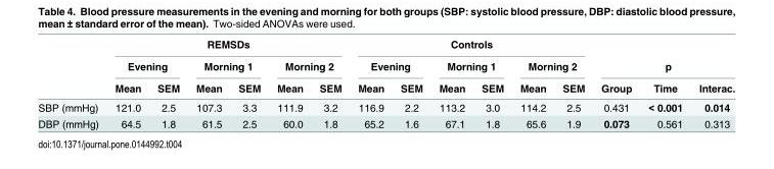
<table><thead><tr><td rowspan="3"></td><td colspan="6">REMSDs</td><td colspan="6">Controls</td><td></td><td></td><td></td></tr><tr><td colspan="2">Evening</td><td colspan="2">Morning 1</td><td colspan="2">Morning 2</td><td colspan="2">Evening</td><td colspan="2">Morning 1</td><td colspan="2">Morning 2</td><td colspan="3">p</td></tr><tr><td>Mean</td><td>SEM</td><td>Mean</td><td>SEM</td><td>Mean</td><td>SEM</td><td>Mean</td><td>SEM</td><td>Mean</td><td>SEM</td><td>Mean</td><td>SEM</td><td>Group</td><td>Time</td><td>Interac.</td></tr></thead><tbody><tr><td>SBP (mmHg)</td><td>121.0</td><td>2.5</td><td>107.3</td><td>3.3</td><td>111.9</td><td>3.2</td><td>116.9</td><td>2.2</td><td>113.2</td><td>3.0</td><td>114.2</td><td>2.5</td><td>0.431</td><td>&lt; 0.001</td><td>0.014</td></tr><tr><td>DBP (mmHg)</td><td>64.5</td><td>1.8</td><td>61.5</td><td>2.5</td><td>60.0</td><td>1.8</td><td>65.2</td><td>1.6</td><td>67.1</td><td>1.8</td><td>65.6</td><td>1.9</td><td>0.073</td><td>0.561</td><td>0.313</td></tr></tbody></table>